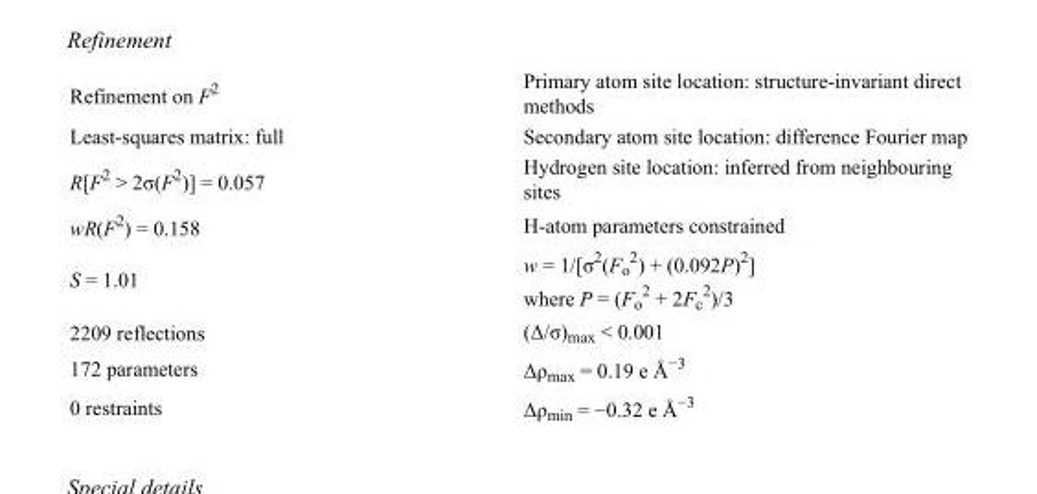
<table><tbody><tr><td>Refinement on F<sup>2</sup></td><td>Primary atom site location: structure-invariant direct methods</td></tr><tr><td>Least-squares matrix: full</td><td>Secondary atom site location: difference Fourier map</td></tr><tr><td>R[F<sup>2</sup> &gt; 2σ(F<sup>2</sup>)] = 0.057</td><td>Hydrogen site location: inferred from neighbouring sites</td></tr><tr><td>wR(F<sup>2</sup>) = 0.158</td><td>H-atom parameters constrained</td></tr><tr><td>S = 1.01</td><td>w = 1/[σ<sup>2</sup>(F<sub>o</sub> <sup>2</sup>) + (0.092P)<sup>2</sup>] where P = (F<sub>o</sub> <sup>2</sup> + 2F<sub>c</sub> <sup>2</sup>)/3</td></tr><tr><td>2209 reflections</td><td>(Δ/σ)<sub>max</sub> &lt; 0.001</td></tr><tr><td>172 parameters</td><td>Δρ<sub>max</sub> = 0.19 e Å<sup>−3</sup></td></tr><tr><td>0 restraints</td><td>Δρ<sub>min</sub> = −0.32 e Å<sup>−3</sup></td></tr></tbody></table>